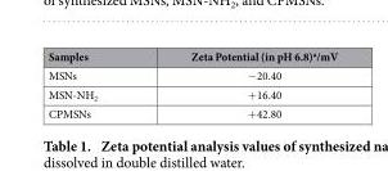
<table><thead><tr><td>Samples</td><td>Zeta Potential (in pH 6.8)<sup>a</sup>/mV</td></tr></thead><tbody><tr><td>MSNs</td><td>− 20.40</td></tr><tr><td>MSN-NH<sub>2</sub></td><td>+ 16.40</td></tr><tr><td>CPMSNs</td><td>+ 42.80</td></tr></tbody></table>